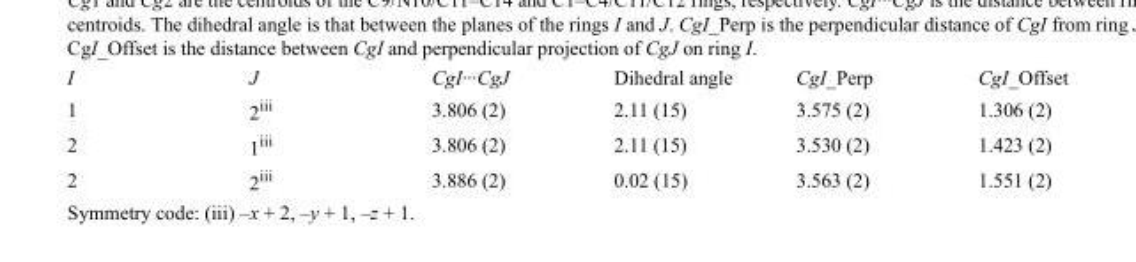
<table><thead><tr><td>I</td><td>J</td><td>CgI···CgJ</td><td>Dihedral angle</td><td>CgI_Perp</td><td>CgI_Offset</td></tr></thead><tbody><tr><td>1</td><td>2<sup>iii</sup></td><td>3.806 (2)</td><td>2.11 (15)</td><td>3.575 (2)</td><td>1.306 (2)</td></tr><tr><td>2</td><td>1<sup>iii</sup></td><td>3.806 (2)</td><td>2.11 (15)</td><td>3.530 (2)</td><td>1.423 (2)</td></tr><tr><td>2</td><td>2<sup>iii</sup></td><td>3.886 (2)</td><td>0.02 (15)</td><td>3.563 (2)</td><td>1.551 (2)</td></tr></tbody></table>